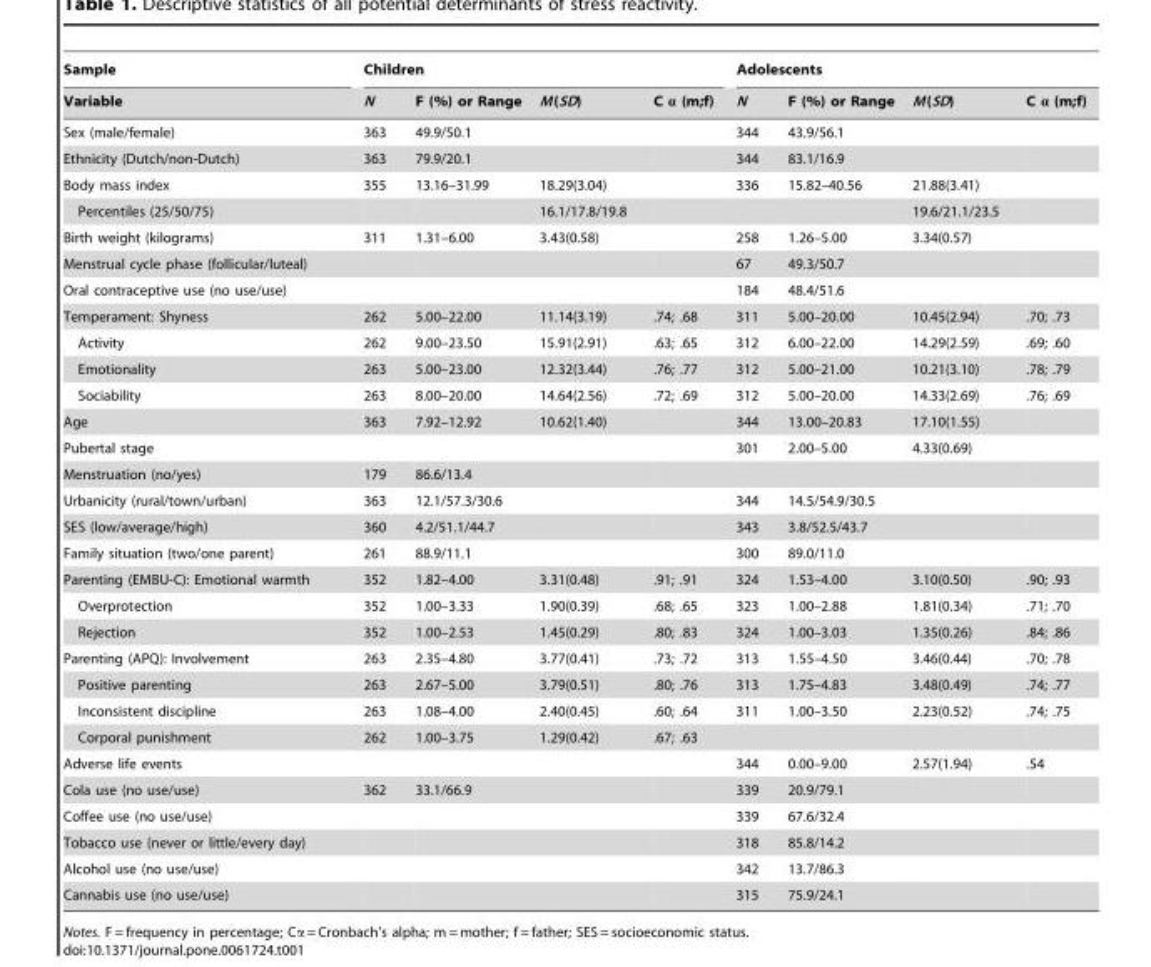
<table><thead><tr><td rowspan="2">Sample Variable</td><td colspan="4">Children</td><td colspan="4">Adolescents</td></tr><tr><td>N</td><td>F (%) or Range</td><td>M(SD)</td><td>C α (m;f)</td><td>N</td><td>F (%) or Range</td><td>M(SD)</td><td>C α (m;f)</td></tr></thead><tbody><tr><td>Sex (male/female)</td><td>363</td><td>49.9/50.1</td><td></td><td></td><td>344</td><td>43.9/56.1</td><td></td><td></td></tr><tr><td>Ethnicity (Dutch/non-Dutch)</td><td>363</td><td>79.9/20.1</td><td></td><td></td><td>344</td><td>83.1/16.9</td><td></td><td></td></tr><tr><td>Body mass index</td><td>355</td><td>13.16–31.99</td><td>18.29(3.04)</td><td></td><td>336</td><td>15.82–40.56</td><td>21.88(3.41)</td><td></td></tr><tr><td>Percentiles (25/50/75)</td><td></td><td></td><td>16.1/17.8/19.8</td><td></td><td></td><td></td><td>19.6/21.1/23.5</td><td></td></tr><tr><td>Birth weight (kilograms)</td><td>311</td><td>1.31–6.00</td><td>3.43(0.58)</td><td></td><td>258</td><td>1.26–5.00</td><td>3.34(0.57)</td><td></td></tr><tr><td>Menstrual cycle phase (follicular/luteal)</td><td></td><td></td><td></td><td></td><td>67</td><td>49.3/50.7</td><td></td><td></td></tr><tr><td>Oral contraceptive use (no use/use)</td><td></td><td></td><td></td><td></td><td>184</td><td>48.4/51.6</td><td></td><td></td></tr><tr><td>Temperament: Shyness</td><td>262</td><td>5.00–22.00</td><td>11.14(3.19)</td><td>.74; .68</td><td>311</td><td>5.00–20.00</td><td>10.45(2.94)</td><td>.70; .73</td></tr><tr><td>Activity</td><td>262</td><td>9.00–23.50</td><td>15.91(2.91)</td><td>.63; .65</td><td>312</td><td>6.00–22.00</td><td>14.29(2.59)</td><td>.69; .60</td></tr><tr><td>Emotionality</td><td>263</td><td>5.00–23.00</td><td>12.32(3.44)</td><td>.76; .77</td><td>312</td><td>5.00–21.00</td><td>10.21(3.10)</td><td>.78; .79</td></tr><tr><td>Sociability</td><td>263</td><td>8.00–20.00</td><td>14.64(2.56)</td><td>.72; .69</td><td>312</td><td>5.00–20.00</td><td>14.33(2.69)</td><td>.76; .69</td></tr><tr><td>Age</td><td>363</td><td>7.92–12.92</td><td>10.62(1.40)</td><td></td><td>344</td><td>13.00–20.83</td><td>17.10(1.55)</td><td></td></tr><tr><td>Pubertal stage</td><td></td><td></td><td></td><td></td><td>301</td><td>2.00–5.00</td><td>4.33(0.69)</td><td></td></tr><tr><td>Menstruation (no/yes)</td><td>179</td><td>86.6/13.4</td><td></td><td></td><td></td><td></td><td></td><td></td></tr><tr><td>Urbanicity (rural/town/urban)</td><td>363</td><td>12.1/57.3/30.6</td><td></td><td></td><td>344</td><td>14.5/54.9/30.5</td><td></td><td></td></tr><tr><td>SES (low/average/high)</td><td>360</td><td>4.2/51.1/44.7</td><td></td><td></td><td>343</td><td>3.8/52.5/43.7</td><td></td><td></td></tr><tr><td>Family situation (two/one parent)</td><td>261</td><td>88.9/11.1</td><td></td><td></td><td>300</td><td>89.0/11.0</td><td></td><td></td></tr><tr><td>Parenting (EMBU-C): Emotional warmth</td><td>352</td><td>1.82–4.00</td><td>3.31(0.48)</td><td>.91; .91</td><td>324</td><td>1.53–4.00</td><td>3.10(0.50)</td><td>.90; .93</td></tr><tr><td>Overprotection</td><td>352</td><td>1.00–3.33</td><td>1.90(0.39)</td><td>.68; .65</td><td>323</td><td>1.00–2.88</td><td>1.81(0.34)</td><td>.71; .70</td></tr><tr><td>Rejection</td><td>352</td><td>1.00–2.53</td><td>1.45(0.29)</td><td>.80; .83</td><td>324</td><td>1.00–3.03</td><td>1.35(0.26)</td><td>.84; .86</td></tr><tr><td>Parenting (APQ): Involvement</td><td>263</td><td>2.35–4.80</td><td>3.77(0.41)</td><td>.73; .72</td><td>313</td><td>1.55–4.50</td><td>3.46(0.44)</td><td>.70; .78</td></tr><tr><td>Positive parenting</td><td>263</td><td>2.67–5.00</td><td>3.79(0.51)</td><td>.80; .76</td><td>313</td><td>1.75–4.83</td><td>3.48(0.49)</td><td>.74; .77</td></tr><tr><td>Inconsistent discipline</td><td>263</td><td>1.08–4.00</td><td>2.40(0.45)</td><td>.60; .64</td><td>311</td><td>1.00–3.50</td><td>2.23(0.52)</td><td>.74; .75</td></tr><tr><td>Corporal punishment</td><td>262</td><td>1.00–3.75</td><td>1.29(0.42)</td><td>.67; .63</td><td></td><td></td><td></td><td></td></tr><tr><td>Adverse life events</td><td></td><td></td><td></td><td></td><td>344</td><td>0.00–9.00</td><td>2.57(1.94)</td><td>.54</td></tr><tr><td>Cola use (no use/use)</td><td>362</td><td>33.1/66.9</td><td></td><td></td><td>339</td><td>20.9/79.1</td><td></td><td></td></tr><tr><td>Coffee use (no use/use)</td><td></td><td></td><td></td><td></td><td>339</td><td>67.6/32.4</td><td></td><td></td></tr><tr><td>Tobacco use (never or little/every day)</td><td></td><td></td><td></td><td></td><td>318</td><td>85.8/14.2</td><td></td><td></td></tr><tr><td>Alcohol use (no use/use)</td><td></td><td></td><td></td><td></td><td>342</td><td>13.7/86.3</td><td></td><td></td></tr><tr><td>Cannabis use (no use/use)</td><td></td><td></td><td></td><td></td><td>315</td><td>75.9/24.1</td><td></td><td></td></tr></tbody></table>